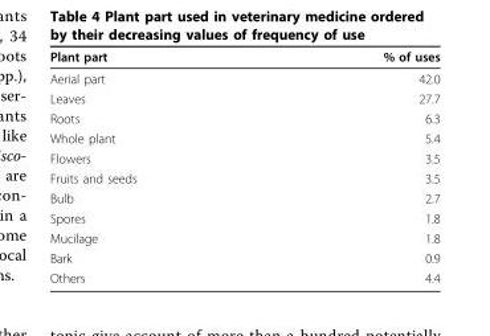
<table><thead><tr><td>Plant part</td><td>% of uses</td></tr></thead><tbody><tr><td>Aerial part</td><td>42.0</td></tr><tr><td>Leaves</td><td>27.7</td></tr><tr><td>Roots</td><td>6.3</td></tr><tr><td>Whole plant</td><td>5.4</td></tr><tr><td>Flowers</td><td>3.5</td></tr><tr><td>Fruits and seeds</td><td>3.5</td></tr><tr><td>Bulb</td><td>2.7</td></tr><tr><td>Spores</td><td>1.8</td></tr><tr><td>Mucilage</td><td>1.8</td></tr><tr><td>Bark</td><td>0.9</td></tr><tr><td>Others</td><td>4.4</td></tr></tbody></table>